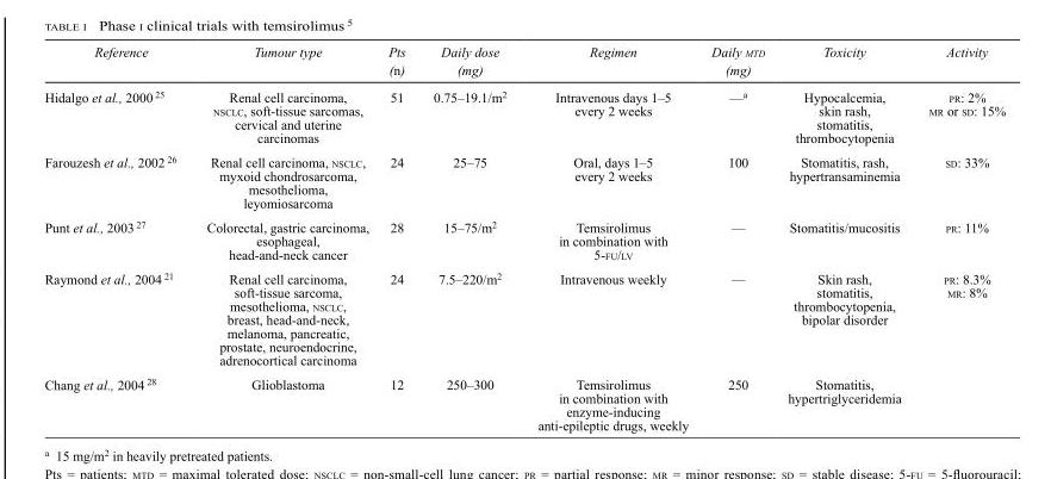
<table><thead><tr><td>Reference</td><td>Tumour type</td><td>Pts (n)</td><td>Daily dose (mg)</td><td>Regimen</td><td>Daily mtd (mg)</td><td>Toxicity</td><td>Activity</td></tr></thead><tbody><tr><td>Hidalgo et al., 2000 <sup>25</sup></td><td>Renal cell carcinoma, nsclc, soft-tissue sarcomas, cervical and uterine carcinomas</td><td>51</td><td>0.75–19.1/m<sup>2</sup></td><td>Intravenous days 1–5 every 2 weeks</td><td>—a</td><td>Hypocalcemia, skin rash, stomatitis, thrombocytopenia</td><td>pr: 2% mr or sd: 15%</td></tr><tr><td>Farouzesh et al., 2002 <sup>26</sup></td><td>Renal cell carcinoma, nsclc, myxoid chondrosarcoma, mesothelioma, leyomiosarcoma</td><td>24</td><td>25–75</td><td>Oral, days 1–5 every 2 weeks</td><td>100</td><td>Stomatitis, rash, hypertransaminemia</td><td>sd: 33%</td></tr><tr><td>Punt et al., 2003 <sup>27</sup></td><td>Colorectal, gastric carcinoma, esophageal, head-and-neck cancer</td><td>28</td><td>15–75/m<sup>2</sup></td><td>Temsirolimus in combination with 5-fu/lv</td><td>—</td><td>Stomatitis/mucositis</td><td>pr: 11%</td></tr><tr><td>Raymond et al., 2004 <sup>21</sup></td><td>Renal cell carcinoma, soft-tissue sarcoma, mesothelioma, nsclc, breast, head-and-neck, melanoma, pancreatic, prostate, neuroendocrine, adrenocortical carcinoma</td><td>24</td><td>7.5–220/m<sup>2</sup></td><td>Intravenous weekly</td><td>—</td><td>Skin rash, stomatitis, thrombocytopenia, bipolar disorder</td><td>pr: 8.3% mr: 8%</td></tr><tr><td>Chang et al., 2004 <sup>28</sup></td><td>Glioblastoma</td><td>12</td><td>250–300</td><td>Temsirolimus in combination with enzyme-inducing anti-epileptic drugs, weekly</td><td>250</td><td>Stomatitis, hypertriglyceridemia</td><td></td></tr></tbody></table>